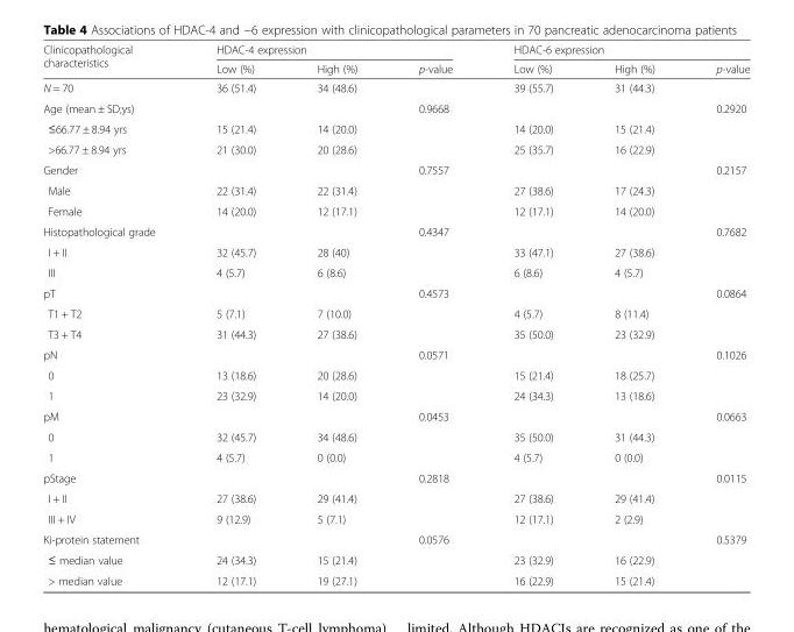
<table><thead><tr><td rowspan="2">Clinicopathological characteristics</td><td colspan="3">HDAC-4 expression</td><td colspan="3">HDAC-6 expression</td></tr><tr><td>Low (%)</td><td>High (%)</td><td>p-value</td><td>Low (%)</td><td>High (%)</td><td>p-value</td></tr></thead><tbody><tr><td>N = 70</td><td>36 (51.4)</td><td>34 (48.6)</td><td></td><td>39 (55.7)</td><td>31 (44.3)</td><td></td></tr><tr><td>Age (mean ± SD;ys)</td><td></td><td></td><td>0.9668</td><td></td><td></td><td>0.2920</td></tr><tr><td>≤66.77 ± 8.94 yrs</td><td>15 (21.4)</td><td>14 (20.0)</td><td></td><td>14 (20.0)</td><td>15 (21.4)</td><td></td></tr><tr><td>&gt;66.77 ± 8.94 yrs</td><td>21 (30.0)</td><td>20 (28.6)</td><td></td><td>25 (35.7)</td><td>16 (22.9)</td><td></td></tr><tr><td>Gender</td><td></td><td></td><td>0.7557</td><td></td><td></td><td>0.2157</td></tr><tr><td>Male</td><td>22 (31.4)</td><td>22 (31.4)</td><td></td><td>27 (38.6)</td><td>17 (24.3)</td><td></td></tr><tr><td>Female</td><td>14 (20.0)</td><td>12 (17.1)</td><td></td><td>12 (17.1)</td><td>14 (20.0)</td><td></td></tr><tr><td>Histopathological grade</td><td></td><td></td><td>0.4347</td><td></td><td></td><td>0.7682</td></tr><tr><td>I + II</td><td>32 (45.7)</td><td>28 (40)</td><td></td><td>33 (47.1)</td><td>27 (38.6)</td><td></td></tr><tr><td>III</td><td>4 (5.7)</td><td>6 (8.6)</td><td></td><td>6 (8.6)</td><td>4 (5.7)</td><td></td></tr><tr><td>pT</td><td></td><td></td><td>0.4573</td><td></td><td></td><td>0.0864</td></tr><tr><td>T1 + T2</td><td>5 (7.1)</td><td>7 (10.0)</td><td></td><td>4 (5.7)</td><td>8 (11.4)</td><td></td></tr><tr><td>T3 + T4</td><td>31 (44.3)</td><td>27 (38.6)</td><td></td><td>35 (50.0)</td><td>23 (32.9)</td><td></td></tr><tr><td>pN</td><td></td><td></td><td>0.0571</td><td></td><td></td><td>0.1026</td></tr><tr><td>0</td><td>13 (18.6)</td><td>20 (28.6)</td><td></td><td>15 (21.4)</td><td>18 (25.7)</td><td></td></tr><tr><td>1</td><td>23 (32.9)</td><td>14 (20.0)</td><td></td><td>24 (34.3)</td><td>13 (18.6)</td><td></td></tr><tr><td>pM</td><td></td><td></td><td>0.0453</td><td></td><td></td><td>0.0663</td></tr><tr><td>0</td><td>32 (45.7)</td><td>34 (48.6)</td><td></td><td>35 (50.0)</td><td>31 (44.3)</td><td></td></tr><tr><td>1</td><td>4 (5.7)</td><td>0 (0.0)</td><td></td><td>4 (5.7)</td><td>0 (0.0)</td><td></td></tr><tr><td>pStage</td><td></td><td></td><td>0.2818</td><td></td><td></td><td>0.0115</td></tr><tr><td>I + II</td><td>27 (38.6)</td><td>29 (41.4)</td><td></td><td>27 (38.6)</td><td>29 (41.4)</td><td></td></tr><tr><td>III + IV</td><td>9 (12.9)</td><td>5 (7.1)</td><td></td><td>12 (17.1)</td><td>2 (2.9)</td><td></td></tr><tr><td>Ki-protein statement</td><td></td><td></td><td>0.0576</td><td></td><td></td><td>0.5379</td></tr><tr><td>≤ median value</td><td>24 (34.3)</td><td>15 (21.4)</td><td></td><td>23 (32.9)</td><td>16 (22.9)</td><td></td></tr><tr><td>&gt; median value</td><td>12 (17.1)</td><td>19 (27.1)</td><td></td><td>16 (22.9)</td><td>15 (21.4)</td><td></td></tr></tbody></table>